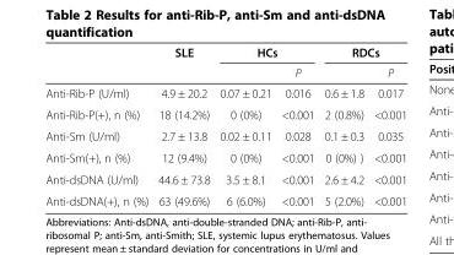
<table><thead><tr><td rowspan="2"></td><td rowspan="2">SLE</td><td colspan="2">HCs</td><td colspan="2">RDCs</td></tr><tr><td></td><td>P</td><td></td><td>P</td></tr></thead><tbody><tr><td>Anti-Rib-P (U/ml)</td><td>4.9 ± 20.2</td><td>0.07 ± 0.21</td><td>0.016</td><td>0.6 ± 1.8</td><td>0.017</td></tr><tr><td>Anti-Rib-P(+), n (%)</td><td>18 (14.2%)</td><td>0 (0%)</td><td>&lt;0.001</td><td>2 (0.8%)</td><td>&lt;0.001</td></tr><tr><td>Anti-Sm (U/ml)</td><td>2.7 ± 13.8</td><td>0.02 ± 0.11</td><td>0.028</td><td>0.1 ± 0.3</td><td>0.035</td></tr><tr><td>Anti-Sm(+), n (%)</td><td>12 (9.4%)</td><td>0 (0%)</td><td>&lt;0.001</td><td>0 (0%) )</td><td>&lt;0.001</td></tr><tr><td>Anti-dsDNA (U/ml)</td><td>44.6 ± 73.8</td><td>3.5 ± 8.1</td><td>&lt;0.001</td><td>2.6 ± 4.2</td><td>&lt;0.001</td></tr><tr><td>Anti-dsDNA(+), n (%)</td><td>63 (49.6%)</td><td>6 (6.0%)</td><td>&lt;0.001</td><td>5 (2.0%)</td><td>&lt;0.001</td></tr></tbody></table>